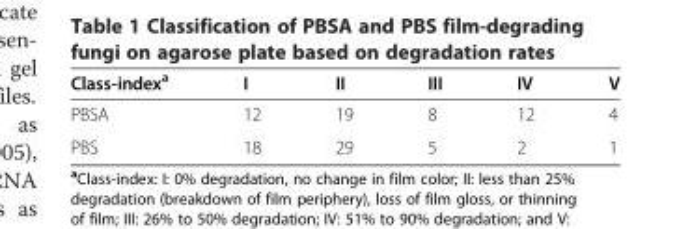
<table><thead><tr><td>Class-index<sup>a</sup></td><td>I</td><td>II</td><td>III</td><td>IV</td><td>V</td></tr></thead><tbody><tr><td>PBSA</td><td>12</td><td>19</td><td>8</td><td>12</td><td>4</td></tr><tr><td>PBS</td><td>18</td><td>29</td><td>5</td><td>2</td><td>1</td></tr></tbody></table>